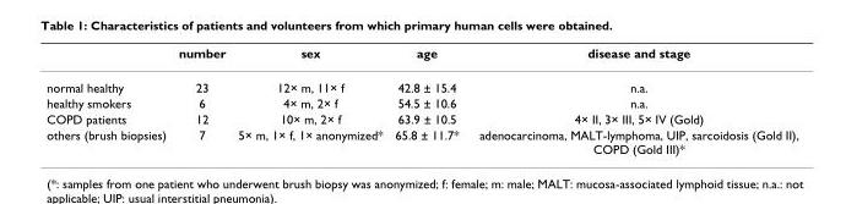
<table><thead><tr><td></td><td>number</td><td>sex</td><td>age</td><td>disease and stage</td></tr></thead><tbody><tr><td>normal healthy</td><td>23</td><td>12× m, 11× f</td><td>42.8 ± 15.4</td><td>n.a.</td></tr><tr><td>healthy smokers</td><td>6</td><td>4× m, 2× f</td><td>54.5 ± 10.6</td><td>n.a.</td></tr><tr><td>COPD patients</td><td>12</td><td>10× m, 2× f</td><td>63.9 ± 10.5</td><td>4× II, 3× III, 5× IV (Gold)</td></tr><tr><td>others (brush biopsies)</td><td>7</td><td>5× m, 1× f, 1× anonymized*</td><td>65.8 ± 11.7*</td><td>adenocarcinoma, MALT-lymphoma, UIP, sarcoidosis (Gold II), COPD (Gold III)*</td></tr></tbody></table>